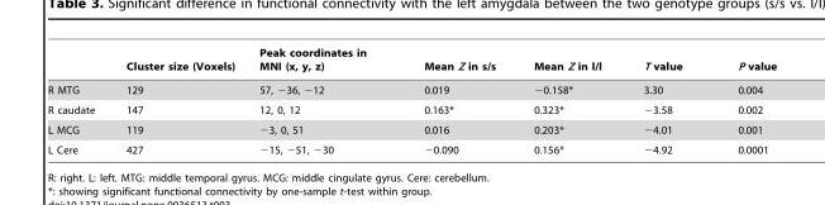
<table><thead><tr><td></td><td>Cluster size (Voxels)</td><td>Peak coordinates in MNI (x, y, z)</td><td>Mean Z in s/s</td><td>Mean Z in l/l</td><td>T value</td><td>P value</td></tr></thead><tbody><tr><td>R MTG</td><td>129</td><td>57, −36, −12</td><td>0.019</td><td>−0.158*</td><td>3.30</td><td>0.004</td></tr><tr><td>R caudate</td><td>147</td><td>12, 0, 12</td><td>0.163*</td><td>0.323*</td><td>−3.58</td><td>0.002</td></tr><tr><td>L MCG</td><td>119</td><td>−3, 0, 51</td><td>0.016</td><td>0.203*</td><td>−4.01</td><td>0.001</td></tr><tr><td>L Cere</td><td>427</td><td>−15, −51, −30</td><td>−0.090</td><td>0.156*</td><td>−4.92</td><td>0.0001</td></tr></tbody></table>